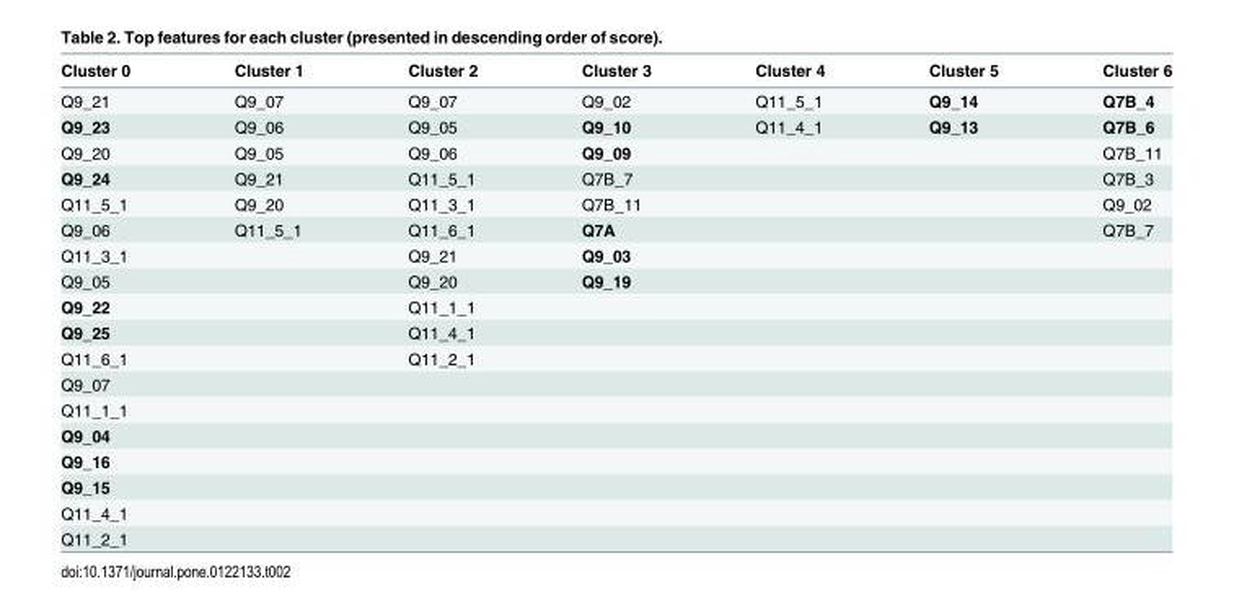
<table><thead><tr><td>Cluster 0</td><td>Cluster 1</td><td>Cluster 2</td><td>Cluster 3</td><td>Cluster 4</td><td>Cluster 5</td><td>Cluster 6</td></tr></thead><tbody><tr><td>Q9_21</td><td>Q9_07</td><td>Q9_07</td><td>Q9_02</td><td>Q11_5_1</td><td>Q9_14</td><td>Q7B_4</td></tr><tr><td>Q9_23</td><td>Q9_06</td><td>Q9_05</td><td>Q9_10</td><td>Q11_4_1</td><td>Q9_13</td><td>Q7B_6</td></tr><tr><td>Q9_20</td><td>Q9_05</td><td>Q9_06</td><td>Q9_09</td><td></td><td></td><td>Q7B_11</td></tr><tr><td>Q9_24</td><td>Q9_21</td><td>Q11_5_1</td><td>Q7B_7</td><td></td><td></td><td>Q7B_3</td></tr><tr><td>Q11_5_1</td><td>Q9_20</td><td>Q11_3_1</td><td>Q7B_11</td><td></td><td></td><td>Q9_02</td></tr><tr><td>Q9_06</td><td>Q11_5_1</td><td>Q11_6_1</td><td>Q7A</td><td></td><td></td><td>Q7B_7</td></tr><tr><td>Q11_3_1</td><td></td><td>Q9_21</td><td>Q9_03</td><td></td><td></td><td></td></tr><tr><td>Q9_05</td><td></td><td>Q9_20</td><td>Q9_19</td><td></td><td></td><td></td></tr><tr><td>Q9_22</td><td></td><td>Q11_1_1</td><td></td><td></td><td></td><td></td></tr><tr><td>Q9_25</td><td></td><td>Q11_4_1</td><td></td><td></td><td></td><td></td></tr><tr><td>Q11_6_1</td><td></td><td>Q11_2_1</td><td></td><td></td><td></td><td></td></tr><tr><td colspan="7">Q9_07</td></tr><tr><td colspan="7">Q11_1_1</td></tr><tr><td colspan="7">Q9_04</td></tr><tr><td colspan="7">Q9_16</td></tr><tr><td colspan="7">Q9_15</td></tr><tr><td colspan="7">Q11_4_1</td></tr><tr><td>Q11_2_1</td><td></td><td></td><td></td><td></td><td></td><td></td></tr></tbody></table>